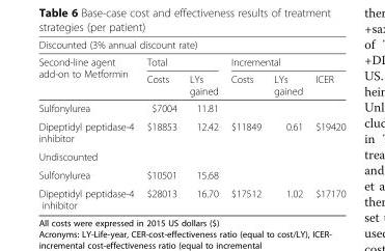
<table><thead><tr><td colspan="6">Discounted (3% annual discount rate)</td></tr><tr><td rowspan="2">Second-line agent add-on to Metformin</td><td colspan="2">Total</td><td colspan="3">Incremental</td></tr><tr><td>Costs</td><td>LYs gained</td><td>Costs</td><td>LYs gained</td><td>ICER</td></tr></thead><tbody><tr><td>Sulfonylurea</td><td>$7004</td><td>11.81</td><td></td><td></td><td></td></tr><tr><td>Dipeptidyl peptidase-4 inhibitor</td><td>$18853</td><td>12.42</td><td>$11849</td><td>0.61</td><td>$19420</td></tr><tr><td colspan="6">Undiscounted</td></tr><tr><td>Sulfonylurea</td><td>$10501</td><td>15.68</td><td></td><td></td><td></td></tr><tr><td>Dipeptidyl peptidase-4 inhibitor</td><td>$28013</td><td>16.70</td><td>$17512</td><td>1.02</td><td>$17170</td></tr></tbody></table>